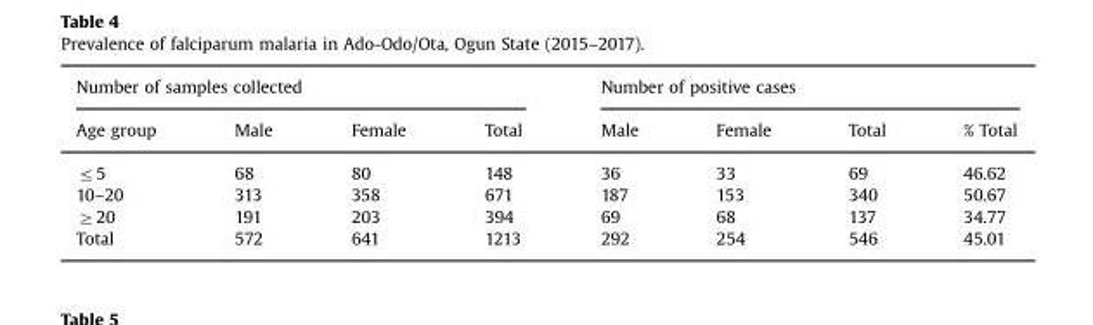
<table><thead><tr><td colspan="4">Number of samples collected</td><td colspan="4">Number of positive cases</td></tr><tr><td>Age group</td><td>Male</td><td>Female</td><td>Total</td><td>Male</td><td>Female</td><td>Total</td><td>% Total</td></tr></thead><tbody><tr><td>≤5</td><td>68</td><td>80</td><td>148</td><td>36</td><td>33</td><td>69</td><td>46.62</td></tr><tr><td>10–20</td><td>313</td><td>358</td><td>671</td><td>187</td><td>153</td><td>340</td><td>50.67</td></tr><tr><td>≥20</td><td>191</td><td>203</td><td>394</td><td>69</td><td>68</td><td>137</td><td>34.77</td></tr><tr><td>Total</td><td>572</td><td>641</td><td>1213</td><td>292</td><td>254</td><td>546</td><td>45.01</td></tr></tbody></table>